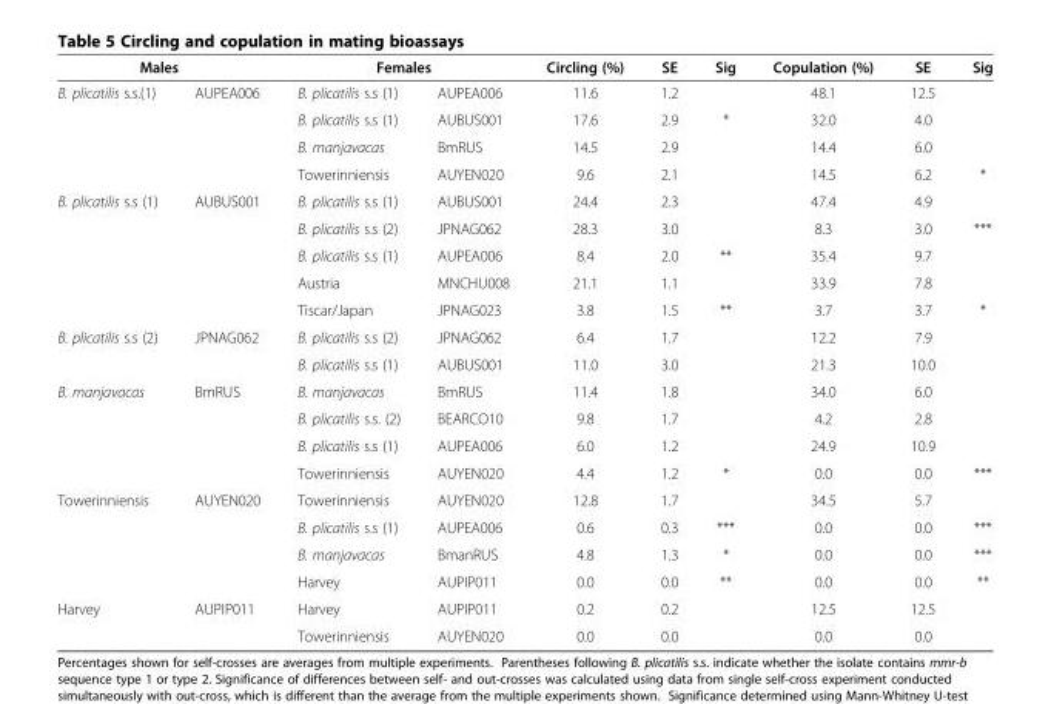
<table><thead><tr><td colspan="2">Males</td><td colspan="2">Females</td><td rowspan="2">Circling (%) 11.6</td><td rowspan="2">SE 1.2</td><td rowspan="2">Sig</td><td rowspan="2">Copulation (%) 48.1</td><td rowspan="2">SE 12.5</td><td rowspan="2">Sig</td></tr><tr><td>B. plicatilis s.s.(1)</td><td>AUPEA006</td><td>B. plicatilis s.s (1)</td><td>AUPEA006</td></tr></thead><tbody><tr><td></td><td></td><td>B. plicatilis s.s (1)</td><td>AUBUS001</td><td>17.6</td><td>2.9</td><td>*</td><td>32.0</td><td>4.0</td><td></td></tr><tr><td></td><td></td><td>B. manjavacas</td><td>BmRUS</td><td>14.5</td><td>2.9</td><td></td><td>14.4</td><td>6.0</td><td></td></tr><tr><td></td><td></td><td>Towerinniensis</td><td>AUYEN020</td><td>9.6</td><td>2.1</td><td></td><td>14.5</td><td>6.2</td><td>*</td></tr><tr><td rowspan="5">B. plicatilis s.s (1)</td><td>AUBUS001</td><td>B. plicatilis s.s (1)</td><td>AUBUS001</td><td>24.4</td><td>2.3</td><td></td><td>47.4</td><td>4.9</td><td></td></tr><tr><td></td><td>B. plicatilis s.s (2)</td><td>JPNAG062</td><td>28.3</td><td>3.0</td><td></td><td>8.3</td><td>3.0</td><td>***</td></tr><tr><td></td><td>B. plicatilis s.s (1)</td><td>AUPEA006</td><td>8.4</td><td>2.0</td><td>**</td><td>35.4</td><td>9.7</td><td></td></tr><tr><td></td><td>Austria</td><td>MNCHU008</td><td>21.1</td><td>1.1</td><td></td><td>33.9</td><td>7.8</td><td></td></tr><tr><td></td><td>Tiscar/Japan</td><td>JPNAG023</td><td>3.8</td><td>1.5</td><td>**</td><td>3.7</td><td>3.7</td><td>*</td></tr><tr><td rowspan="2">B. plicatilis s.s (2)</td><td>JPNAG062</td><td>B. plicatilis s.s (2)</td><td>JPNAG062</td><td>6.4</td><td>1.7</td><td></td><td>12.2</td><td>7.9</td><td></td></tr><tr><td></td><td>B. plicatilis s.s (1)</td><td>AUBUS001</td><td>11.0</td><td>3.0</td><td></td><td>21.3</td><td>10.0</td><td></td></tr><tr><td rowspan="4">B. manjavacas</td><td>BmRUS</td><td>B. manjavacas</td><td>BmRUS</td><td>11.4</td><td>1.8</td><td></td><td>34.0</td><td>6.0</td><td></td></tr><tr><td></td><td>B. plicatilis s.s. (2)</td><td>BEARCO10</td><td>9.8</td><td>1.7</td><td></td><td>4.2</td><td>2.8</td><td></td></tr><tr><td></td><td>B. plicatilis s.s (1)</td><td>AUPEA006</td><td>6.0</td><td>1.2</td><td></td><td>24.9</td><td>10.9</td><td></td></tr><tr><td></td><td>Towerinniensis</td><td>AUYEN020</td><td>4.4</td><td>1.2</td><td>*</td><td>0.0</td><td>0.0</td><td>***</td></tr><tr><td rowspan="4">Towerinniensis</td><td>AUYEN020</td><td>Towerinniensis</td><td>AUYEN020</td><td>12.8</td><td>1.7</td><td></td><td>34.5</td><td>5.7</td><td></td></tr><tr><td></td><td>B. plicatilis s.s (1)</td><td>AUPEA006</td><td>0.6</td><td>0.3</td><td>***</td><td>0.0</td><td>0.0</td><td>***</td></tr><tr><td></td><td>B. manjavacas</td><td>BmanRUS</td><td>4.8</td><td>1.3</td><td>*</td><td>0.0</td><td>0.0</td><td>***</td></tr><tr><td></td><td>Harvey</td><td>AUPIP011</td><td>0.0</td><td>0.0</td><td>**</td><td>0.0</td><td>0.0</td><td>**</td></tr><tr><td rowspan="2">Harvey</td><td>AUPIP011</td><td>Harvey</td><td>AUPIP011</td><td>0.2</td><td>0.2</td><td></td><td>12.5</td><td>12.5</td><td></td></tr><tr><td></td><td>Towerinniensis</td><td>AUYEN020</td><td>0.0</td><td>0.0</td><td></td><td>0.0</td><td>0.0</td><td></td></tr></tbody></table>